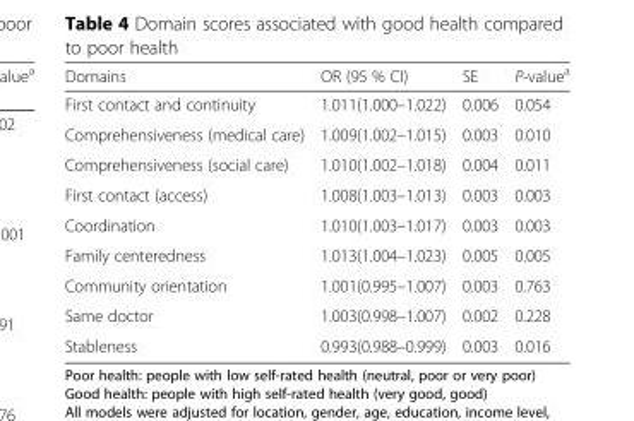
<table><thead><tr><td>Domains</td><td>OR (95 % CI)</td><td>SE</td><td>P-value<sup>a</sup></td></tr></thead><tbody><tr><td>First contact and continuity</td><td>1.011(1.000–1.022)</td><td>0.006</td><td>0.054</td></tr><tr><td>Comprehensiveness (medical care)</td><td>1.009(1.002–1.015)</td><td>0.003</td><td>0.010</td></tr><tr><td>Comprehensiveness (social care)</td><td>1.010(1.002–1.018)</td><td>0.004</td><td>0.011</td></tr><tr><td>First contact (access)</td><td>1.008(1.003–1.013)</td><td>0.003</td><td>0.003</td></tr><tr><td>Coordination</td><td>1.010(1.003–1.017)</td><td>0.003</td><td>0.003</td></tr><tr><td>Family centeredness</td><td>1.013(1.004–1.023)</td><td>0.005</td><td>0.005</td></tr><tr><td>Community orientation</td><td>1.001(0.995–1.007)</td><td>0.003</td><td>0.763</td></tr><tr><td>Same doctor</td><td>1.003(0.998–1.007)</td><td>0.002</td><td>0.228</td></tr><tr><td>Stableness</td><td>0.993(0.988–0.999)</td><td>0.003</td><td>0.016</td></tr></tbody></table>